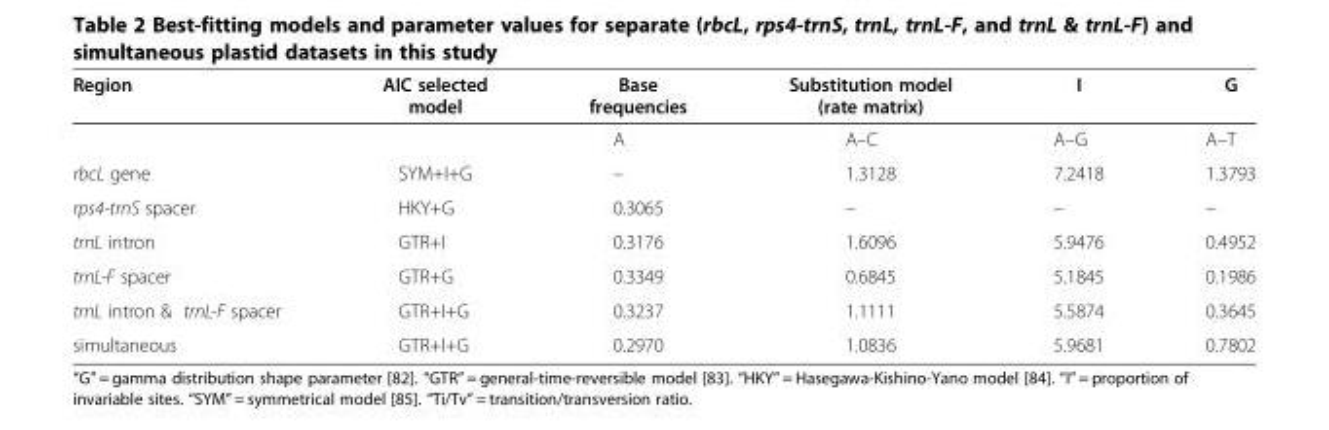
<table><thead><tr><td>Region</td><td>AIC selected model</td><td>Base frequencies</td><td>Substitution model (rate matrix)</td><td>I</td><td>G</td></tr></thead><tbody><tr><td></td><td></td><td>A</td><td>A–C</td><td>A–G</td><td>A–T</td></tr><tr><td>rbcL gene</td><td>SYM+I+G</td><td>–</td><td>1.3128</td><td>7.2418</td><td>1.3793</td></tr><tr><td>rps4-trnS spacer</td><td>HKY+G</td><td>0.3065</td><td>–</td><td>–</td><td>–</td></tr><tr><td>trnL intron</td><td>GTR+I</td><td>0.3176</td><td>1.6096</td><td>5.9476</td><td>0.4952</td></tr><tr><td>trnL-F spacer</td><td>GTR+G</td><td>0.3349</td><td>0.6845</td><td>5.1845</td><td>0.1986</td></tr><tr><td>trnL intron &amp; trnL-F spacer</td><td>GTR+I+G</td><td>0.3237</td><td>1.1111</td><td>5.5874</td><td>0.3645</td></tr><tr><td>simultaneous</td><td>GTR+I+G</td><td>0.2970</td><td>1.0836</td><td>5.9681</td><td>0.7802</td></tr></tbody></table>